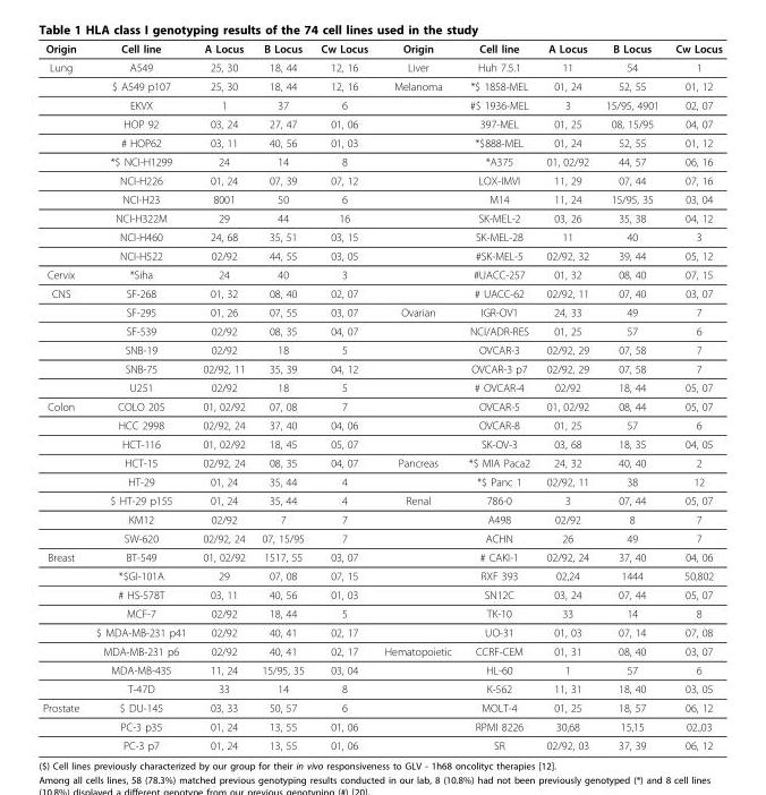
<table><thead><tr><td>Origin</td><td>Cell line</td><td>A Locus</td><td>B Locus</td><td>Cw Locus</td><td>Origin</td><td>Cell line</td><td>A Locus</td><td>B Locus</td><td>Cw Locus</td></tr></thead><tbody><tr><td rowspan="11">Lung</td><td>A549</td><td>25, 30</td><td>18, 44</td><td>12, 16</td><td>Liver</td><td>Huh 7.5.1</td><td>11</td><td>54</td><td>1</td></tr><tr><td>$ A549 p107</td><td>25, 30</td><td>18, 44</td><td>12, 16</td><td>Melanoma</td><td>*$ 1858-MEL</td><td>01, 24</td><td>52, 55</td><td>01, 12</td></tr><tr><td>EKVX</td><td>1</td><td>37</td><td>6</td><td></td><td>#$ 1936-MEL</td><td>3</td><td>15/95, 4901</td><td>02, 07</td></tr><tr><td>HOP 92</td><td>03, 24</td><td>27, 47</td><td>01, 06</td><td></td><td>397-MEL</td><td>01, 25</td><td>08, 15/95</td><td>04, 07</td></tr><tr><td># HOP62</td><td>03, 11</td><td>40, 56</td><td>01, 03</td><td></td><td>*$888-MEL</td><td>01, 24</td><td>52, 55</td><td>01, 12</td></tr><tr><td>*$ NCI-H1299</td><td>24</td><td>14</td><td>8</td><td></td><td>*A375</td><td>01, 02/92</td><td>44, 57</td><td>06, 16</td></tr><tr><td>NCI-H226</td><td>01, 24</td><td>07, 39</td><td>07, 12</td><td></td><td>LOX-IMVI</td><td>11, 29</td><td>07, 44</td><td>07, 16</td></tr><tr><td>NCI-H23</td><td>8001</td><td>50</td><td>6</td><td></td><td>M14</td><td>11, 24</td><td>15/95, 35</td><td>03, 04</td></tr><tr><td>NCI-H322M</td><td>29</td><td>44</td><td>16</td><td></td><td>SK-MEL-2</td><td>03, 26</td><td>35, 38</td><td>04, 12</td></tr><tr><td>NCI-H460</td><td>24, 68</td><td>35, 51</td><td>03, 15</td><td></td><td>SK-MEL-28</td><td>11</td><td>40</td><td>3</td></tr><tr><td>NCI-H522</td><td>02/92</td><td>44, 55</td><td>03, 05</td><td></td><td>#SK-MEL-5</td><td>02/92, 32</td><td>39, 44</td><td>05, 12</td></tr><tr><td>Cervix</td><td>*Siha</td><td>24</td><td>40</td><td>3</td><td></td><td>#UACC-257</td><td>01, 32</td><td>08, 40</td><td>07, 15</td></tr><tr><td rowspan="6">CNS</td><td>SF-268</td><td>01, 32</td><td>08, 40</td><td>02, 07</td><td></td><td># UACC-62</td><td>02/92, 11</td><td>07, 40</td><td>03, 07</td></tr><tr><td>SF-295</td><td>01, 26</td><td>07, 55</td><td>03, 07</td><td>Ovarian</td><td>IGR-OV1</td><td>24, 33</td><td>49</td><td>7</td></tr><tr><td>SF-539</td><td>02/92</td><td>08, 35</td><td>04, 07</td><td></td><td>NCI/ADR-RES</td><td>01, 25</td><td>57</td><td>6</td></tr><tr><td>SNB-19</td><td>02/92</td><td>18</td><td>5</td><td></td><td>OVCAR-3</td><td>02/92, 29</td><td>07, 58</td><td>7</td></tr><tr><td>SNB-75</td><td>02/92, 11</td><td>35, 39</td><td>04, 12</td><td></td><td>OVCAR-3 p7</td><td>02/92, 29</td><td>07, 58</td><td>7</td></tr><tr><td>U251</td><td>02/92</td><td>18</td><td>5</td><td></td><td># OVCAR-4</td><td>02/92</td><td>18, 44</td><td>05, 07</td></tr><tr><td rowspan="8">Colon</td><td>COLO 205</td><td>01, 02/92</td><td>07, 08</td><td>7</td><td></td><td>OVCAR-5</td><td>01, 02/92</td><td>08, 44</td><td>05, 07</td></tr><tr><td>HCC 2998</td><td>02/92, 24</td><td>37, 40</td><td>04, 06</td><td></td><td>OVCAR-8</td><td>01, 25</td><td>57</td><td>6</td></tr><tr><td>HCT-116</td><td>01, 02/92</td><td>18, 45</td><td>05, 07</td><td></td><td>SK-OV-3</td><td>03, 68</td><td>18, 35</td><td>04, 05</td></tr><tr><td>HCT-15</td><td>02/92, 24</td><td>08, 35</td><td>04, 07</td><td>Pancreas</td><td>*$ MIA Paca2</td><td>24, 32</td><td>40, 40</td><td>2</td></tr><tr><td>HT-29</td><td>01, 24</td><td>35, 44</td><td>4</td><td></td><td>*$ Panc 1</td><td>02/92, 11</td><td>38</td><td>12</td></tr><tr><td>$ HT-29 p155</td><td>01, 24</td><td>35, 44</td><td>4</td><td>Renal</td><td>786-0</td><td>3</td><td>07, 44</td><td>05, 07</td></tr><tr><td>KM12</td><td>02/92</td><td>7</td><td>7</td><td></td><td>A498</td><td>02/92</td><td>8</td><td>7</td></tr><tr><td>SW-620</td><td>02/92, 24</td><td>07, 15/95</td><td>7</td><td></td><td>ACHN</td><td>26</td><td>49</td><td>7</td></tr><tr><td rowspan="8">Breast</td><td>BT-549</td><td>01, 02/92</td><td>1517, 55</td><td>03, 07</td><td></td><td># CAKI-1</td><td>02/92, 24</td><td>37, 40</td><td>04, 06</td></tr><tr><td>*$GI-101A</td><td>29</td><td>07, 08</td><td>07, 15</td><td></td><td>RXF 393</td><td>02,24</td><td>1444</td><td>50,802</td></tr><tr><td># HS-578T</td><td>03, 11</td><td>40, 56</td><td>01, 03</td><td></td><td>SN12C</td><td>03, 24</td><td>07, 44</td><td>05, 07</td></tr><tr><td>MCF-7</td><td>02/92</td><td>18, 44</td><td>5</td><td></td><td>TK-10</td><td>33</td><td>14</td><td>8</td></tr><tr><td>$ MDA-MB-231 p41</td><td>02/92</td><td>40, 41</td><td>02, 17</td><td></td><td>UO-31</td><td>01, 03</td><td>07, 14</td><td>07, 08</td></tr><tr><td>MDA-MB-231 p6</td><td>02/92</td><td>40, 41</td><td>02, 17</td><td>Hematopoietic</td><td>CCRF-CEM</td><td>01, 31</td><td>08, 40</td><td>03, 07</td></tr><tr><td>MDA-MB-435</td><td>11, 24</td><td>15/95, 35</td><td>03, 04</td><td></td><td>HL-60</td><td>1</td><td>57</td><td>6</td></tr><tr><td>T-47D</td><td>33</td><td>14</td><td>8</td><td></td><td>K-562</td><td>11, 31</td><td>18, 40</td><td>03, 05</td></tr><tr><td rowspan="3">Prostate</td><td>$ DU-145</td><td>03, 33</td><td>50, 57</td><td>6</td><td></td><td>MOLT-4</td><td>01, 25</td><td>18, 57</td><td>06, 12</td></tr><tr><td>PC-3 p35</td><td>01, 24</td><td>13, 55</td><td>01, 06</td><td></td><td>RPMI 8226</td><td>30,68</td><td>15,15</td><td>02.,03</td></tr><tr><td>PC-3 p7</td><td>01, 24</td><td>13, 55</td><td>01, 06</td><td></td><td>SR</td><td>02/92, 03</td><td>37, 39</td><td>06, 12</td></tr></tbody></table>